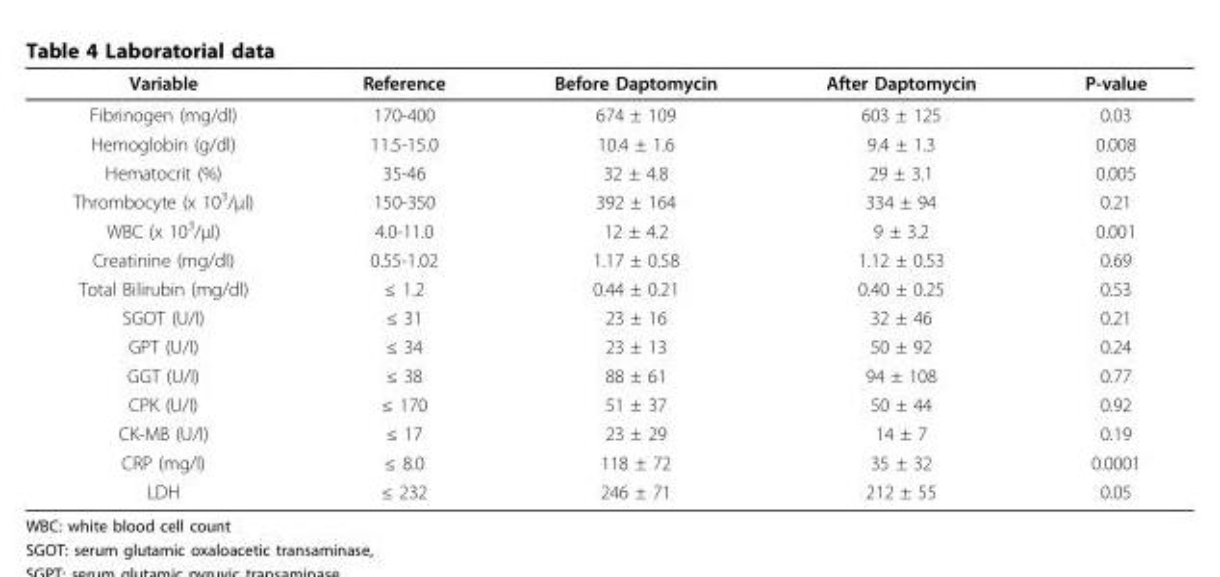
<table><thead><tr><td>Variable</td><td>Reference</td><td>Before Daptomycin</td><td>After Daptomycin</td><td>P-value</td></tr></thead><tbody><tr><td>Fibrinogen (mg/dl)</td><td>170-400</td><td>674 ± 109</td><td>603 ± 125</td><td>0.03</td></tr><tr><td>Hemoglobin (g/dl)</td><td>11.5-15.0</td><td>10.4 ± 1.6</td><td>9.4 ± 1.3</td><td>0.008</td></tr><tr><td>Hematocrit (%)</td><td>35-46</td><td>32 ± 4.8</td><td>29 ± 3.1</td><td>0.005</td></tr><tr><td>Thrombocyte (x 10<sup>3</sup>/μl)</td><td>150-350</td><td>392 ± 164</td><td>334 ± 94</td><td>0.21</td></tr><tr><td>WBC (x 10<sup>3</sup>/μl)</td><td>4.0-11.0</td><td>12 ± 4.2</td><td>9 ± 3.2</td><td>0.001</td></tr><tr><td>Creatinine (mg/dl)</td><td>0.55-1.02</td><td>1.17 ± 0.58</td><td>1.12 ± 0.53</td><td>0.69</td></tr><tr><td>Total Bilirubin (mg/dl)</td><td>≤ 1.2</td><td>0.44 ± 0.21</td><td>0.40 ± 0.25</td><td>0.53</td></tr><tr><td>SGOT (U/I)</td><td>≤ 31</td><td>23 ± 16</td><td>32 ± 46</td><td>0.21</td></tr><tr><td>GPT (U/I)</td><td>≤ 34</td><td>23 ± 13</td><td>50 ± 92</td><td>0.24</td></tr><tr><td>GGT (U/I)</td><td>≤ 38</td><td>88 ± 61</td><td>94 ± 108</td><td>0.77</td></tr><tr><td>CPK (U/I)</td><td>≤ 170</td><td>51 ± 37</td><td>50 ± 44</td><td>0.92</td></tr><tr><td>CK-MB (U/I)</td><td>≤ 17</td><td>23 ± 29</td><td>14 ± 7</td><td>0.19</td></tr><tr><td>CRP (mg/l)</td><td>≤ 8.0</td><td>118 ± 72</td><td>35 ± 32</td><td>0.0001</td></tr><tr><td>LDH</td><td>≤ 232</td><td>246 ± 71</td><td>212 ± 55</td><td>0.05</td></tr></tbody></table>